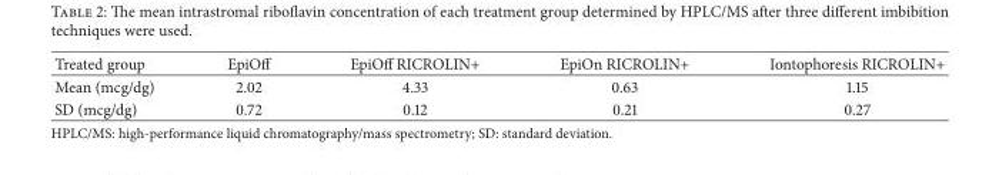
<table><thead><tr><td>Treated group</td><td>EpiOff</td><td>EpiOff RICROLIN+</td><td>EpiOn RICROLIN+</td><td>Iontophoresis RICROLIN+</td></tr></thead><tbody><tr><td>Mean (mcg/dg)</td><td>2.02</td><td>4.33</td><td>0.63</td><td>1.15</td></tr><tr><td>SD (mcg/dg)</td><td>0.72</td><td>0.12</td><td>0.21</td><td>0.27</td></tr></tbody></table>